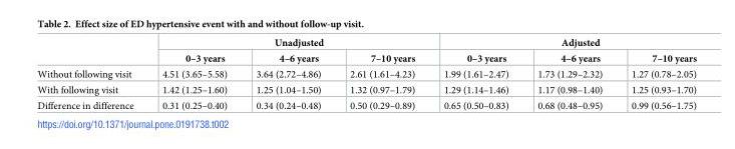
<table><thead><tr><td rowspan="2"></td><td colspan="3">Unadjusted</td><td colspan="3">Adjusted</td></tr><tr><td>0–3 years</td><td>4–6 years</td><td>7–10 years</td><td>0–3 years</td><td>4–6 years</td><td>7–10 years</td></tr></thead><tbody><tr><td>Without following visit</td><td>4.51 (3.65–5.58)</td><td>3.64 (2.72–4.86)</td><td>2.61 (1.61–4.23)</td><td>1.99 (1.61–2.47)</td><td>1.73 (1.29–2.32)</td><td>1.27 (0.78–2.05)</td></tr><tr><td>With following visit</td><td>1.42 (1.25–1.60)</td><td>1.25 (1.04–1.50)</td><td>1.32 (0.97–1.79)</td><td>1.29 (1.14–1.46)</td><td>1.17 (0.98–1.40)</td><td>1.25 (0.93–1.70)</td></tr><tr><td>Difference in difference</td><td>0.31 (0.25–0.40)</td><td>0.34 (0.24–0.48)</td><td>0.50 (0.29–0.89)</td><td>0.65 (0.50–0.83)</td><td>0.68 (0.48–0.95)</td><td>0.99 (0.56–1.75)</td></tr></tbody></table>